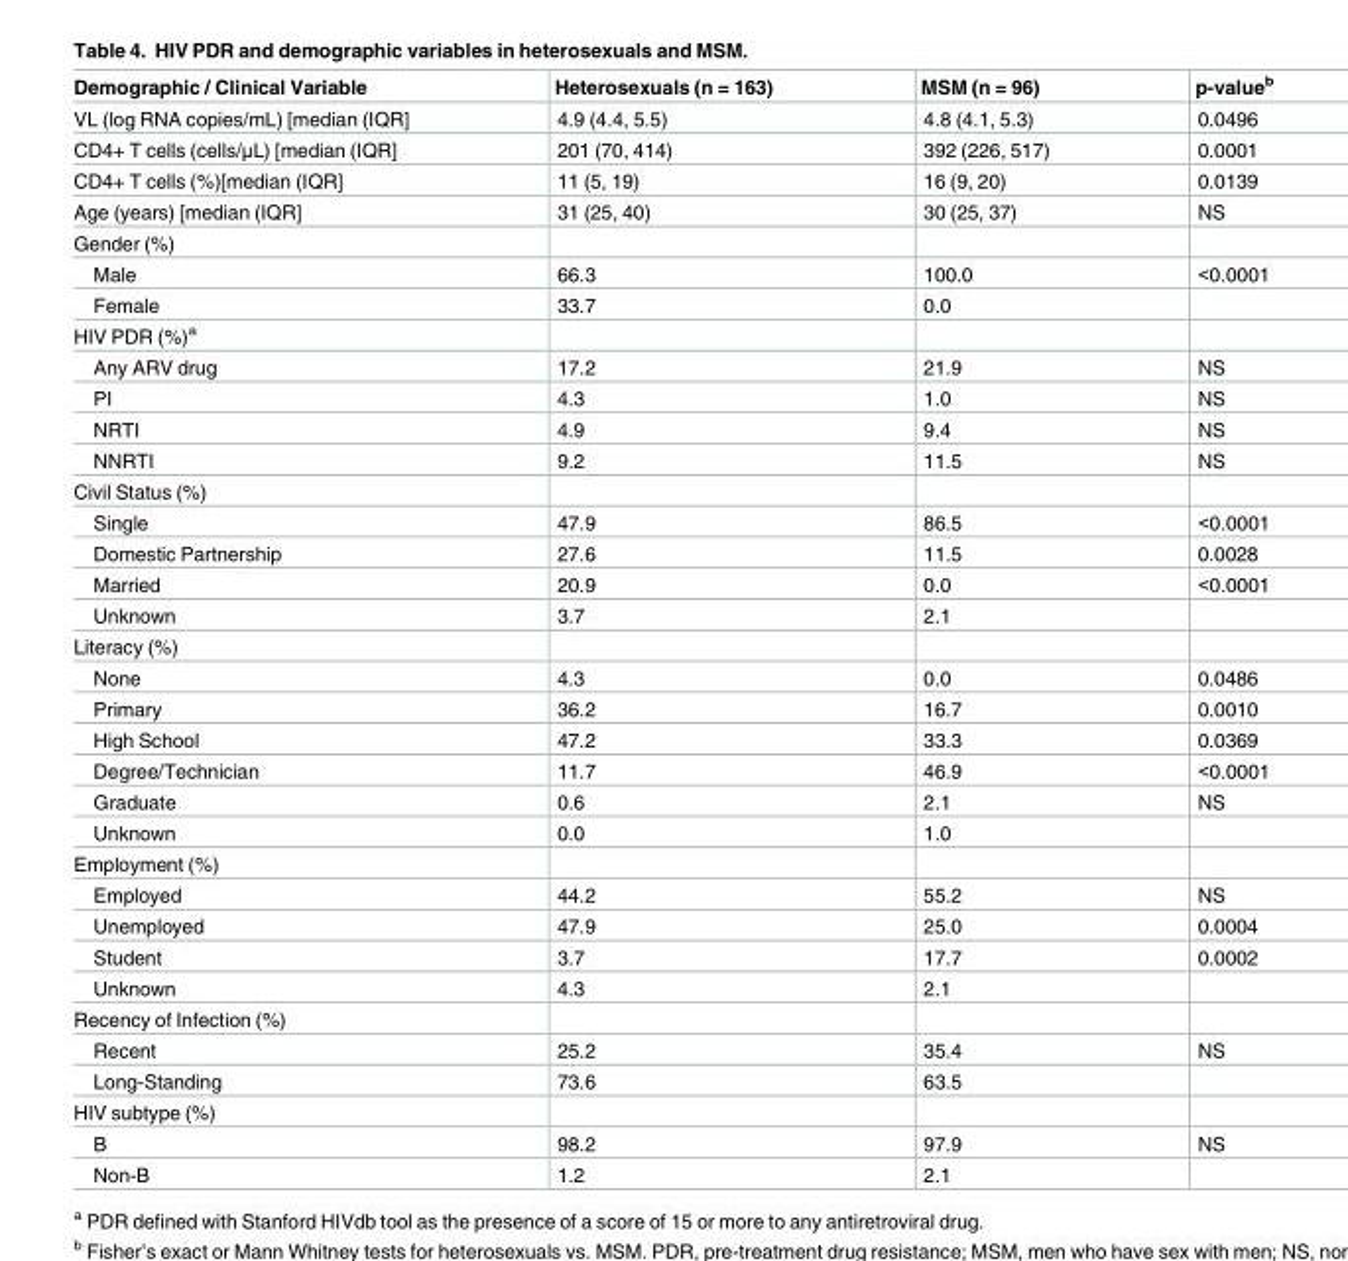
<table><thead><tr><td>Demographic / Clinical Variable</td><td>Heterosexuals (n = 163)</td><td>MSM (n = 96)</td><td>p-value<sup>b</sup></td></tr></thead><tbody><tr><td>VL (log RNA copies/mL) [median (IQR]</td><td>4.9 (4.4, 5.5)</td><td>4.8 (4.1, 5.3)</td><td>0.0496</td></tr><tr><td>CD4+ T cells (cells/μL) [median (IQR]</td><td>201 (70, 414)</td><td>392 (226, 517)</td><td>0.0001</td></tr><tr><td>CD4+ T cells (%)[median (IQR]</td><td>11 (5, 19)</td><td>16 (9, 20)</td><td>0.0139</td></tr><tr><td>Age (years) [median (IQR]</td><td>31 (25, 40)</td><td>30 (25, 37)</td><td>NS</td></tr><tr><td colspan="4">Gender (%)</td></tr><tr><td>Male</td><td>66.3</td><td>100.0</td><td>&lt;0.0001</td></tr><tr><td>Female</td><td>33.7</td><td>0.0</td><td></td></tr><tr><td colspan="4">HIV PDR (%)<sup>a</sup></td></tr><tr><td>Any ARV drug</td><td>17.2</td><td>21.9</td><td>NS</td></tr><tr><td>PI</td><td>4.3</td><td>1.0</td><td>NS</td></tr><tr><td>NRTI</td><td>4.9</td><td>9.4</td><td>NS</td></tr><tr><td>NNRTI</td><td>9.2</td><td>11.5</td><td>NS</td></tr><tr><td colspan="4">Civil Status (%)</td></tr><tr><td>Single</td><td>47.9</td><td>86.5</td><td>&lt;0.0001</td></tr><tr><td>Domestic Partnership</td><td>27.6</td><td>11.5</td><td>0.0028</td></tr><tr><td>Married</td><td>20.9</td><td>0.0</td><td>&lt;0.0001</td></tr><tr><td>Unknown</td><td>3.7</td><td>2.1</td><td></td></tr><tr><td colspan="4">Literacy (%)</td></tr><tr><td>None</td><td>4.3</td><td>0.0</td><td>0.0486</td></tr><tr><td>Primary</td><td>36.2</td><td>16.7</td><td>0.0010</td></tr><tr><td>High School</td><td>47.2</td><td>33.3</td><td>0.0369</td></tr><tr><td>Degree/Technician</td><td>11.7</td><td>46.9</td><td>&lt;0.0001</td></tr><tr><td>Graduate</td><td>0.6</td><td>2.1</td><td>NS</td></tr><tr><td>Unknown</td><td>0.0</td><td>1.0</td><td></td></tr><tr><td colspan="4">Employment (%)</td></tr><tr><td>Employed</td><td>44.2</td><td>55.2</td><td>NS</td></tr><tr><td>Unemployed</td><td>47.9</td><td>25.0</td><td>0.0004</td></tr><tr><td>Student</td><td>3.7</td><td>17.7</td><td>0.0002</td></tr><tr><td>Unknown</td><td>4.3</td><td>2.1</td><td></td></tr><tr><td colspan="4">Recency of Infection (%)</td></tr><tr><td>Recent</td><td>25.2</td><td>35.4</td><td>NS</td></tr><tr><td>Long-Standing</td><td>73.6</td><td>63.5</td><td></td></tr><tr><td colspan="4">HIV subtype (%)</td></tr><tr><td>B</td><td>98.2</td><td>97.9</td><td>NS</td></tr><tr><td>Non-B</td><td>1.2</td><td>2.1</td><td></td></tr></tbody></table>